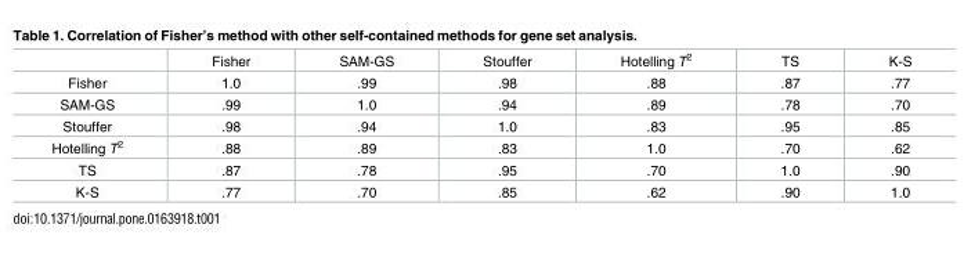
<table><thead><tr><td></td><td>Fisher</td><td>SAM-GS</td><td>Stouffer</td><td>Hotelling T<sup>2</sup></td><td>TS</td><td>K-S</td></tr></thead><tbody><tr><td>Fisher</td><td>1.0</td><td>.99</td><td>.98</td><td>.88</td><td>.87</td><td>.77</td></tr><tr><td>SAM-GS</td><td>.99</td><td>1.0</td><td>.94</td><td>.89</td><td>.78</td><td>.70</td></tr><tr><td>Stouffer</td><td>.98</td><td>.94</td><td>1.0</td><td>.83</td><td>.95</td><td>.85</td></tr><tr><td>Hotelling T<sup>2</sup></td><td>.88</td><td>.89</td><td>.83</td><td>1.0</td><td>.70</td><td>.62</td></tr><tr><td>TS</td><td>.87</td><td>.78</td><td>.95</td><td>.70</td><td>1.0</td><td>.90</td></tr><tr><td>K-S</td><td>.77</td><td>.70</td><td>.85</td><td>.62</td><td>.90</td><td>1.0</td></tr></tbody></table>